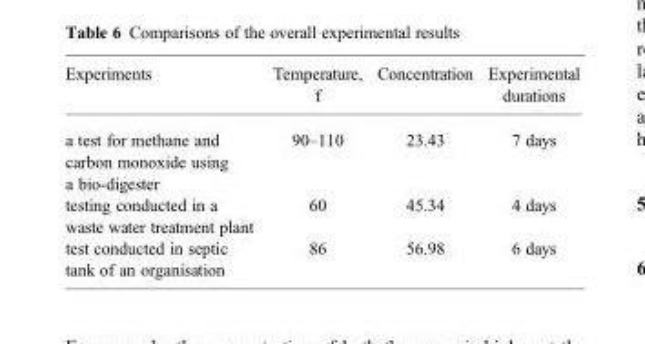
<table><thead><tr><td>Experiments</td><td>Temperature, f</td><td>Concentration</td><td>Experimental durations</td></tr></thead><tbody><tr><td>a test for methane and carbon monoxide using a bio-digester</td><td>90–110</td><td>23.43</td><td>7 days</td></tr><tr><td>testing conducted in a waste water treatment plant</td><td>60</td><td>45.34</td><td>4 days</td></tr><tr><td>test conducted in septic tank of an organisation</td><td>86</td><td>56.98</td><td>6 days</td></tr></tbody></table>